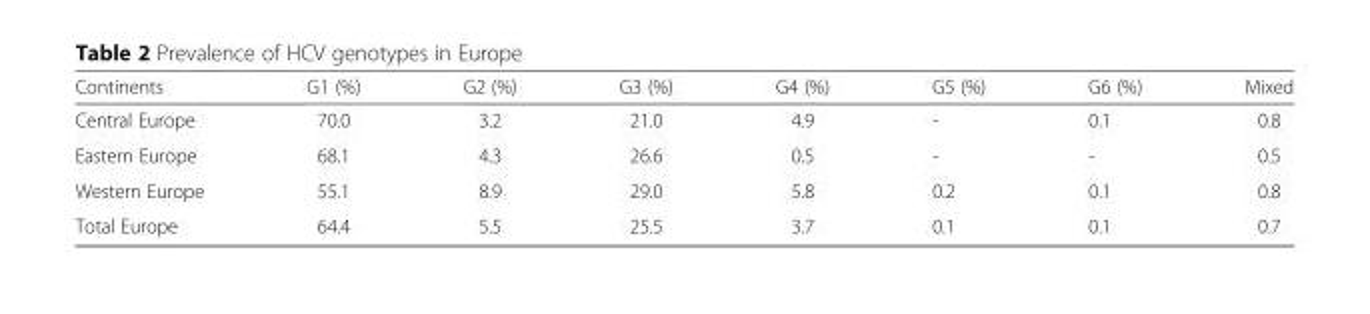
<table><thead><tr><td>Continents</td><td>G1 (%)</td><td>G2 (%)</td><td>G3 (%)</td><td>G4 (%)</td><td>G5 (%)</td><td>G6 (%)</td><td>Mixed</td></tr></thead><tbody><tr><td>Central Europe</td><td>70.0</td><td>3.2</td><td>21.0</td><td>4.9</td><td>-</td><td>0.1</td><td>0.8</td></tr><tr><td>Eastern Europe</td><td>68.1</td><td>4.3</td><td>26.6</td><td>0.5</td><td>-</td><td>-</td><td>0.5</td></tr><tr><td>Western Europe</td><td>55.1</td><td>8.9</td><td>29.0</td><td>5.8</td><td>0.2</td><td>0.1</td><td>0.8</td></tr><tr><td>Total Europe</td><td>64.4</td><td>5.5</td><td>25.5</td><td>3.7</td><td>0.1</td><td>0.1</td><td>0.7</td></tr></tbody></table>